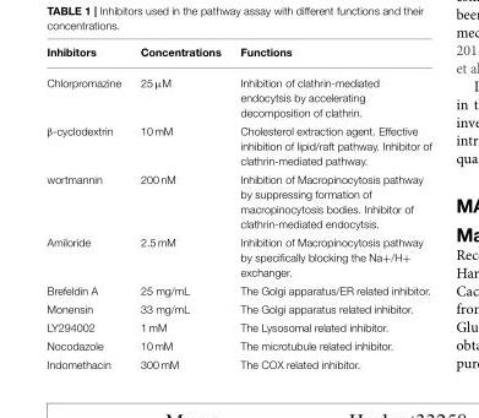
<table><thead><tr><td>Inhibitors</td><td>Concentrations</td><td>Functions</td></tr></thead><tbody><tr><td>Chlorpromazine</td><td>25 µM</td><td>Inhibition of clathrin-mediated endocytsis by accelerating decomposition of clathrin.</td></tr><tr><td>β-cyclodextrin</td><td>10 mM</td><td>Cholesterol extraction agent. Effective inhibition of lipid/raft pathway. Inhibitor of clathrin-mediated pathway.</td></tr><tr><td>wortmannin</td><td>200 nM</td><td>Inhibition of Macropinocytosis pathway by suppressing formation of macropinocytosis bodies. Inhibitor of clathrin-mediated endocytsis.</td></tr><tr><td>Amiloride</td><td>2.5 mM</td><td>Inhibition of Macropinocytosis pathway by specifically blocking the Na+/H+ exchanger.</td></tr><tr><td>Brefeldin A</td><td>25 mg/mL</td><td>The Golgi apparatus/ER related inhibitor.</td></tr><tr><td>Monensin</td><td>33 mg/mL</td><td>The Golgi apparatus related inhibitor.</td></tr><tr><td>LY294002</td><td>1 mM</td><td>The Lysosomal related inhibitor.</td></tr><tr><td>Nocodazole</td><td>10 mM</td><td>The microtubule related inhibitor.</td></tr><tr><td>Indomethacin</td><td>300 mM</td><td>The COX related inhibitor.</td></tr></tbody></table>